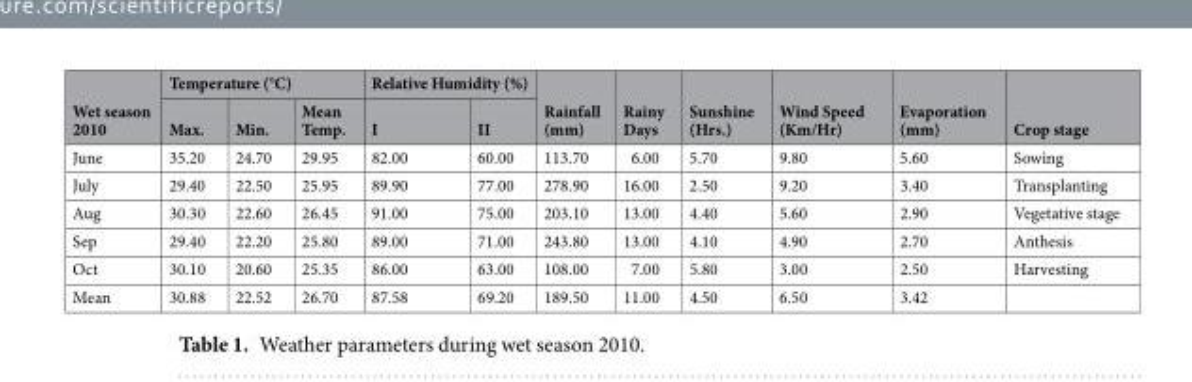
<table><thead><tr><td rowspan="2">Wet season 2010</td><td colspan="3">Temperature (°C)</td><td colspan="2">Relative Humidity (%)</td><td rowspan="2">Rainfall (mm)</td><td rowspan="2">Rainy Days</td><td rowspan="2">Sunshine (Hrs.)</td><td rowspan="2">Wind Speed (Km/Hr)</td><td rowspan="2">Evaporation (mm)</td><td rowspan="2">Crop stage</td></tr><tr><td>Max.</td><td>Min.</td><td>Mean Temp.</td><td>I</td><td>II</td></tr></thead><tbody><tr><td>June</td><td>35.20</td><td>24.70</td><td>29.95</td><td>82.00</td><td>60.00</td><td>113.70</td><td>6.00</td><td>5.70</td><td>9.80</td><td>5.60</td><td>Sowing</td></tr><tr><td>July</td><td>29.40</td><td>22.50</td><td>25.95</td><td>89.90</td><td>77.00</td><td>278.90</td><td>16.00</td><td>2.50</td><td>9.20</td><td>3.40</td><td>Transplanting</td></tr><tr><td>Aug</td><td>30.30</td><td>22.60</td><td>26.45</td><td>91.00</td><td>75.00</td><td>203.10</td><td>13.00</td><td>4.40</td><td>5.60</td><td>2.90</td><td>Vegetative stage</td></tr><tr><td>Sep</td><td>29.40</td><td>22.20</td><td>25.80</td><td>89.00</td><td>71.00</td><td>243.80</td><td>13.00</td><td>4.10</td><td>4.90</td><td>2.70</td><td>Anthesis</td></tr><tr><td>Oct</td><td>30.10</td><td>20.60</td><td>25.35</td><td>86.00</td><td>63.00</td><td>108.00</td><td>7.00</td><td>5.80</td><td>3.00</td><td>2.50</td><td>Harvesting</td></tr><tr><td>Mean</td><td>30.88</td><td>22.52</td><td>26.70</td><td>87.58</td><td>69.20</td><td>189.50</td><td>11.00</td><td>4.50</td><td>6.50</td><td>3.42</td><td></td></tr></tbody></table>